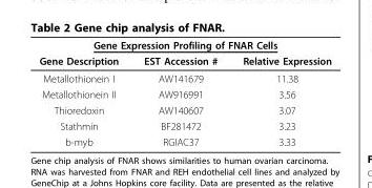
<table><thead><tr><td colspan="3">Gene Expression Profiling of FNAR Cells</td></tr><tr><td>Gene Description</td><td>EST Accession #</td><td>Relative Expression</td></tr></thead><tbody><tr><td>Metallothionein I</td><td>AW141679</td><td>11.38</td></tr><tr><td>Metallothionein II</td><td>AW916991</td><td>3.56</td></tr><tr><td>Thioredoxin</td><td>AW140607</td><td>3.07</td></tr><tr><td>Stathmin</td><td>BF281472</td><td>3.23</td></tr><tr><td>b-myb</td><td>RGIAC37</td><td>3.33</td></tr></tbody></table>